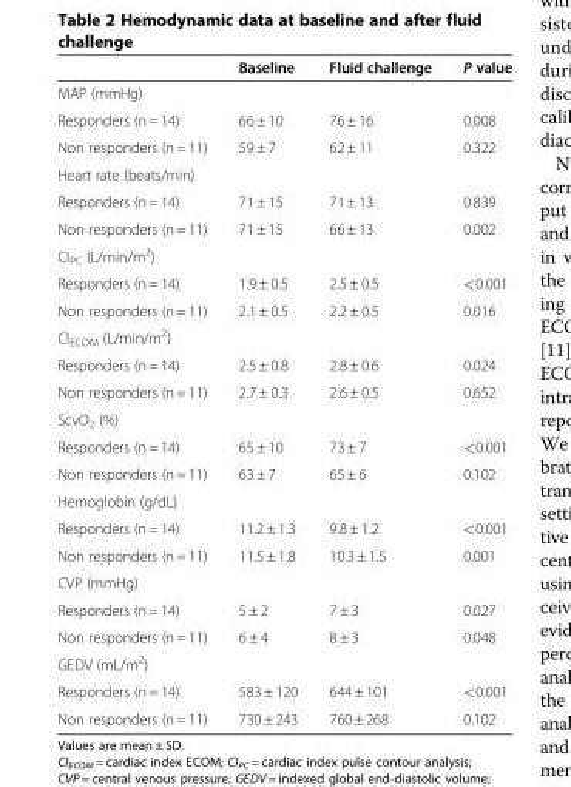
<table><thead><tr><td></td><td>Baseline</td><td>Fluid challenge</td><td>P value</td></tr></thead><tbody><tr><td colspan="4">MAP (mmHg)</td></tr><tr><td>Responders (n = 14)</td><td>66 ± 10</td><td>76 ± 16</td><td>0.008</td></tr><tr><td>Non responders (n = 11)</td><td>59 ± 7</td><td>62 ± 11</td><td>0.322</td></tr><tr><td colspan="4">Heart rate (beats/min)</td></tr><tr><td>Responders (n = 14)</td><td>71 ± 15</td><td>71 ± 13</td><td>0.839</td></tr><tr><td>Non responders (n = 11)</td><td>71 ± 15</td><td>66 ± 13</td><td>0.002</td></tr><tr><td colspan="4">CI<sub>PC</sub> (L/min/m<sup>2</sup>)</td></tr><tr><td>Responders (n = 14)</td><td>1.9 ± 0.5</td><td>2.5 ± 0.5</td><td>&lt;0.001</td></tr><tr><td>Non responders (n = 11)</td><td>2.1 ± 0.5</td><td>2.2 ± 0.5</td><td>0.016</td></tr><tr><td colspan="4">CI<sub>ECOM</sub> (L/min/m<sup>2</sup>)</td></tr><tr><td>Responders (n = 14)</td><td>2.5 ± 0.8</td><td>2.8 ± 0.6</td><td>0.024</td></tr><tr><td>Non responders (n = 11)</td><td>2.7 ± 0.3</td><td>2.6 ± 0.5</td><td>0.652</td></tr><tr><td colspan="4">ScvO<sub>2</sub> (%)</td></tr><tr><td>Responders (n = 14)</td><td>65 ± 10</td><td>73 ± 7</td><td>&lt;0.001</td></tr><tr><td>Non responders (n = 11)</td><td>63 ± 7</td><td>65 ± 6</td><td>0.102</td></tr><tr><td colspan="4">Hemoglobin (g/dL)</td></tr><tr><td>Responders (n = 14)</td><td>11.2 ± 1.3</td><td>9.8 ± 1.2</td><td>&lt;0.001</td></tr><tr><td>Non responders (n = 11)</td><td>11.5 ± 1.8</td><td>10.3 ± 1.5</td><td>0.001</td></tr><tr><td colspan="4">CVP (mmHg)</td></tr><tr><td>Responders (n = 14)</td><td>5 ± 2</td><td>7 ± 3</td><td>0.027</td></tr><tr><td>Non responders (n = 11)</td><td>6 ± 4</td><td>8 ± 3</td><td>0.048</td></tr><tr><td colspan="4">GEDV (mL/m<sup>2</sup>)</td></tr><tr><td>Responders (n = 14)</td><td>583 ± 120</td><td>644 ± 101</td><td>&lt;0.001</td></tr><tr><td>Non responders (n = 11)</td><td>730 ± 243</td><td>760 ± 268</td><td>0.102</td></tr></tbody></table>